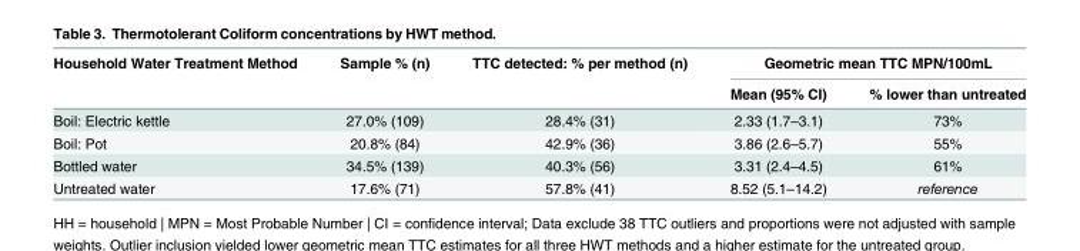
<table><thead><tr><td rowspan="2">Household Water Treatment Method</td><td rowspan="2">Sample % (n)</td><td rowspan="2">TTC detected: % per method (n)</td><td colspan="2">Geometric mean TTC MPN/100mL</td></tr><tr><td>Mean (95% CI)</td><td>% lower than untreated</td></tr></thead><tbody><tr><td>Boil: Electric kettle</td><td>27.0% (109)</td><td>28.4% (31)</td><td>2.33 (1.7–3.1)</td><td>73%</td></tr><tr><td>Boil: Pot</td><td>20.8% (84)</td><td>42.9% (36)</td><td>3.86 (2.6–5.7)</td><td>55%</td></tr><tr><td>Bottled water</td><td>34.5% (139)</td><td>40.3% (56)</td><td>3.31 (2.4–4.5)</td><td>61%</td></tr><tr><td>Untreated water</td><td>17.6% (71)</td><td>57.8% (41)</td><td>8.52 (5.1–14.2)</td><td>reference</td></tr></tbody></table>